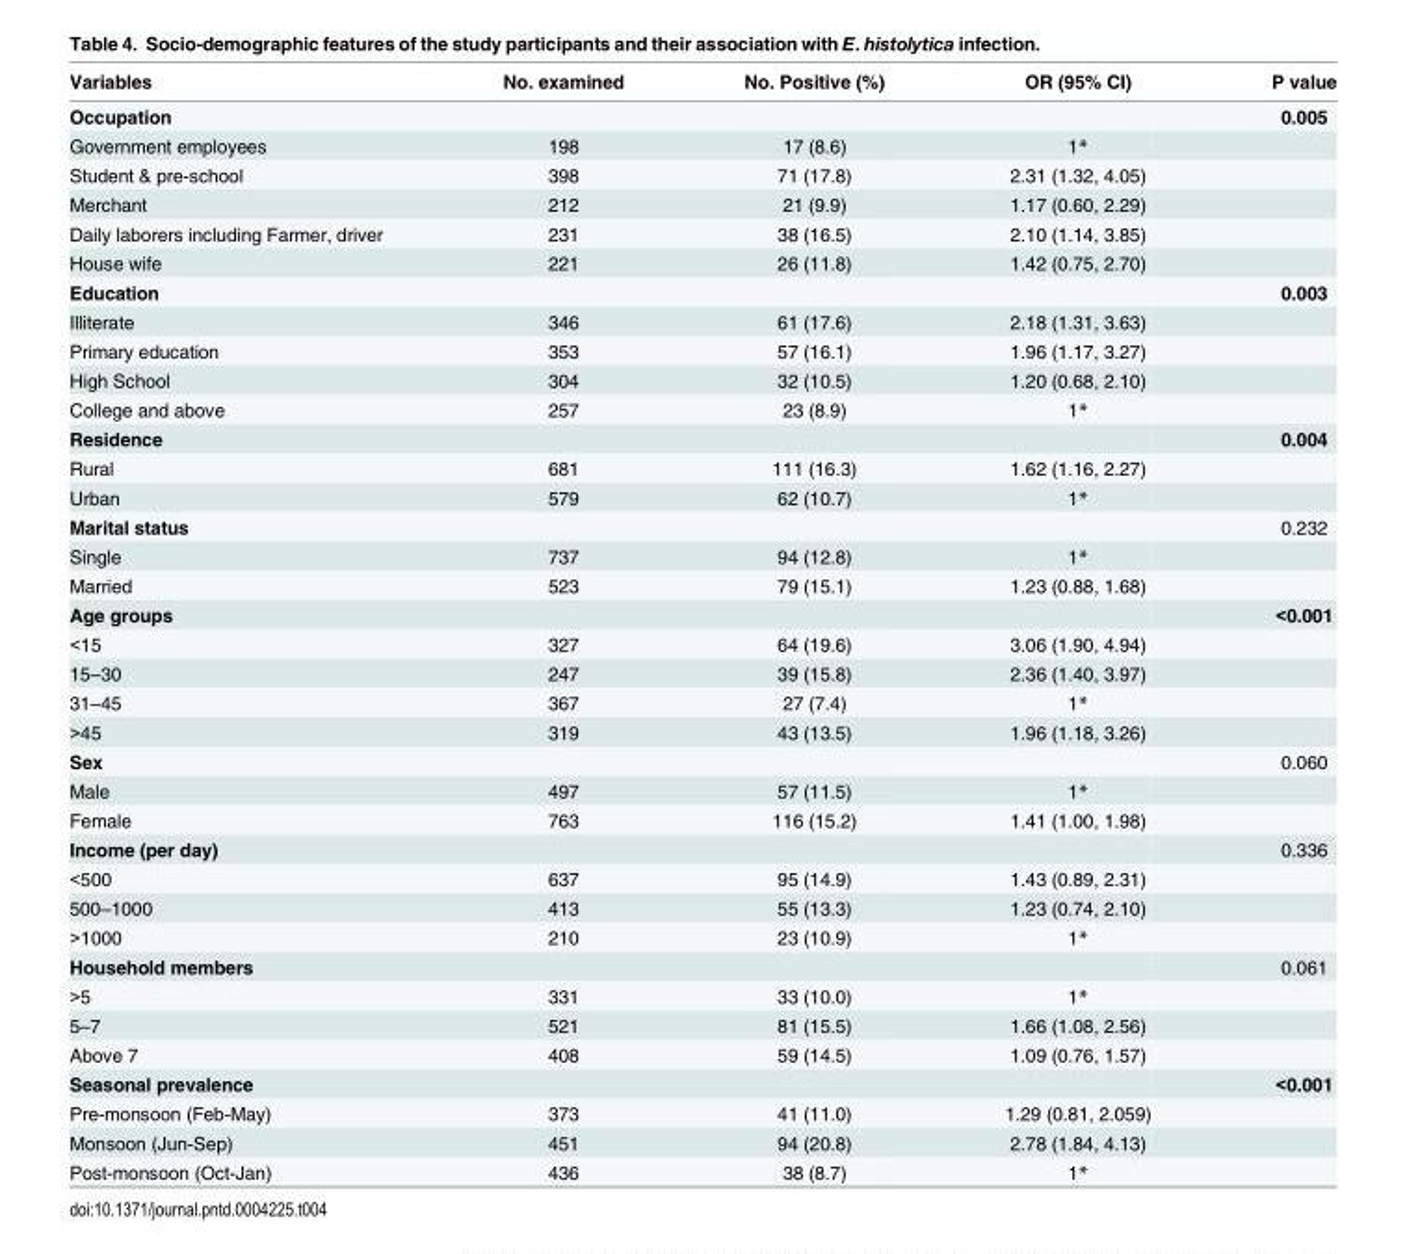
<table><thead><tr><td>Variables</td><td>No. examined</td><td>No. Positive (%)</td><td>OR (95% CI)</td><td>P value</td></tr></thead><tbody><tr><td>Occupation</td><td></td><td></td><td></td><td>0.005</td></tr><tr><td>Government employees</td><td>198</td><td>17 (8.6)</td><td>1*</td><td></td></tr><tr><td>Student &amp; pre-school</td><td>398</td><td>71 (17.8)</td><td>2.31 (1.32, 4.05)</td><td></td></tr><tr><td>Merchant</td><td>212</td><td>21 (9.9)</td><td>1.17 (0.60, 2.29)</td><td></td></tr><tr><td>Daily laborers including Farmer, driver</td><td>231</td><td>38 (16.5)</td><td>2.10 (1.14, 3.85)</td><td></td></tr><tr><td>House wife</td><td>221</td><td>26 (11.8)</td><td>1.42 (0.75, 2.70)</td><td></td></tr><tr><td>Education</td><td></td><td></td><td></td><td>0.003</td></tr><tr><td>Illiterate</td><td>346</td><td>61 (17.6)</td><td>2.18 (1.31, 3.63)</td><td></td></tr><tr><td>Primary education</td><td>353</td><td>57 (16.1)</td><td>1.96 (1.17, 3.27)</td><td></td></tr><tr><td>High School</td><td>304</td><td>32 (10.5)</td><td>1.20 (0.68, 2.10)</td><td></td></tr><tr><td>College and above</td><td>257</td><td>23 (8.9)</td><td>1*</td><td></td></tr><tr><td>Residence</td><td></td><td></td><td></td><td>0.004</td></tr><tr><td>Rural</td><td>681</td><td>111 (16.3)</td><td>1.62 (1.16, 2.27)</td><td></td></tr><tr><td>Urban</td><td>579</td><td>62 (10.7)</td><td>1*</td><td></td></tr><tr><td>Marital status</td><td></td><td></td><td></td><td>0.232</td></tr><tr><td>Single</td><td>737</td><td>94 (12.8)</td><td>1*</td><td></td></tr><tr><td>Married</td><td>523</td><td>79 (15.1)</td><td>1.23 (0.88, 1.68)</td><td></td></tr><tr><td>Age groups</td><td></td><td></td><td></td><td>&lt;0.001</td></tr><tr><td>&lt;15</td><td>327</td><td>64 (19.6)</td><td>3.06 (1.90, 4.94)</td><td></td></tr><tr><td>15–30</td><td>247</td><td>39 (15.8)</td><td>2.36 (1.40, 3.97)</td><td></td></tr><tr><td>31–45</td><td>367</td><td>27 (7.4)</td><td>1*</td><td></td></tr><tr><td>&gt;45</td><td>319</td><td>43 (13.5)</td><td>1.96 (1.18, 3.26)</td><td></td></tr><tr><td>Sex</td><td></td><td></td><td></td><td>0.060</td></tr><tr><td>Male</td><td>497</td><td>57 (11.5)</td><td>1*</td><td></td></tr><tr><td>Female</td><td>763</td><td>116 (15.2)</td><td>1.41 (1.00, 1.98)</td><td></td></tr><tr><td>Income (per day)</td><td></td><td></td><td></td><td>0.336</td></tr><tr><td>&lt;500</td><td>637</td><td>95 (14.9)</td><td>1.43 (0.89, 2.31)</td><td></td></tr><tr><td>500–1000</td><td>413</td><td>55 (13.3)</td><td>1.23 (0.74, 2.10)</td><td></td></tr><tr><td>&gt;1000</td><td>210</td><td>23 (10.9)</td><td>1*</td><td></td></tr><tr><td>Household members</td><td></td><td></td><td></td><td>0.061</td></tr><tr><td>&gt;5</td><td>331</td><td>33 (10.0)</td><td>1*</td><td></td></tr><tr><td>5–7</td><td>521</td><td>81 (15.5)</td><td>1.66 (1.08, 2.56)</td><td></td></tr><tr><td>Above 7</td><td>408</td><td>59 (14.5)</td><td>1.09 (0.76, 1.57)</td><td></td></tr><tr><td>Seasonal prevalence</td><td></td><td></td><td></td><td>&lt;0.001</td></tr><tr><td>Pre-monsoon (Feb-May)</td><td>373</td><td>41 (11.0)</td><td>1.29 (0.81, 2.059)</td><td></td></tr><tr><td>Monsoon (Jun-Sep)</td><td>451</td><td>94 (20.8)</td><td>2.78 (1.84, 4.13)</td><td></td></tr><tr><td>Post-monsoon (Oct-Jan)</td><td>436</td><td>38 (8.7)</td><td>1*</td><td></td></tr></tbody></table>